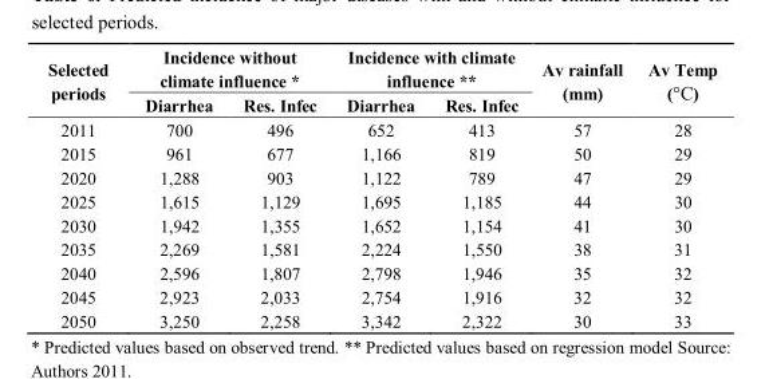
<table><thead><tr><td rowspan="2">Selected periods</td><td colspan="2">Incidence without climate influence *</td><td colspan="2">Incidence with climate influence **</td><td rowspan="2">Av rainfall (mm)</td><td rowspan="2">Av Temp (°C)</td></tr><tr><td>Diarrhea</td><td>Res. Infec</td><td>Diarrhea</td><td>Res. Infec</td></tr></thead><tbody><tr><td>2011</td><td>700</td><td>496</td><td>652</td><td>413</td><td>57</td><td>28</td></tr><tr><td>2015</td><td>961</td><td>677</td><td>1,166</td><td>819</td><td>50</td><td>29</td></tr><tr><td>2020</td><td>1,288</td><td>903</td><td>1,122</td><td>789</td><td>47</td><td>29</td></tr><tr><td>2025</td><td>1,615</td><td>1,129</td><td>1,695</td><td>1,185</td><td>44</td><td>30</td></tr><tr><td>2030</td><td>1,942</td><td>1,355</td><td>1,652</td><td>1,154</td><td>41</td><td>30</td></tr><tr><td>2035</td><td>2,269</td><td>1,581</td><td>2,224</td><td>1,550</td><td>38</td><td>31</td></tr><tr><td>2040</td><td>2,596</td><td>1,807</td><td>2,798</td><td>1,946</td><td>35</td><td>32</td></tr><tr><td>2045</td><td>2,923</td><td>2,033</td><td>2,754</td><td>1,916</td><td>32</td><td>32</td></tr><tr><td>2050</td><td>3,250</td><td>2,258</td><td>3,342</td><td>2,322</td><td>30</td><td>33</td></tr></tbody></table>